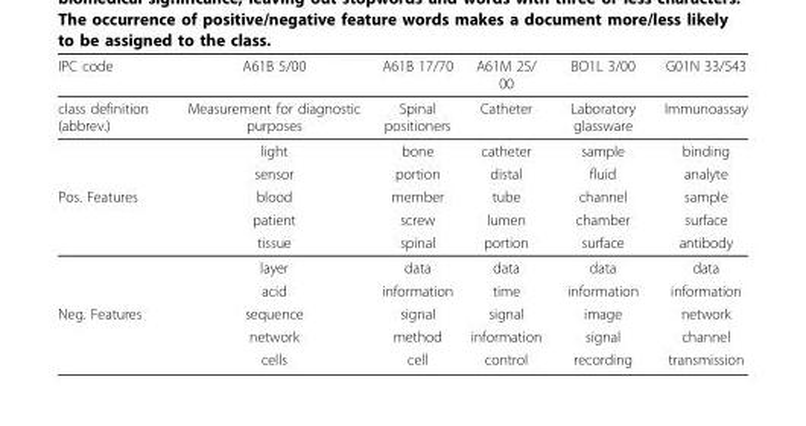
<table><thead><tr><td>IPC code</td><td>A61B 5/00</td><td>A61B 17/70</td><td>A61M 25/ 00</td><td>BO1L 3/00</td><td>G01N 33/543</td></tr></thead><tbody><tr><td rowspan="3">class definition (abbrev.)</td><td>Measurement for diagnostic purposes</td><td>Spinal positioners</td><td>Catheter</td><td>Laboratory glassware</td><td>Immunoassay</td></tr><tr><td>light</td><td>bone</td><td>catheter</td><td>sample</td><td>binding</td></tr><tr><td>sensor</td><td>portion</td><td>distal</td><td>fluid</td><td>analyte</td></tr><tr><td rowspan="5">Pos. Features</td><td>blood</td><td>member</td><td>tube</td><td>channel</td><td>sample</td></tr><tr><td>patient</td><td>screw</td><td>lumen</td><td>chamber</td><td>surface</td></tr><tr><td>tissue</td><td>spinal</td><td>portion</td><td>surface</td><td>antibody</td></tr><tr><td>layer</td><td>data</td><td>data</td><td>data</td><td>data</td></tr><tr><td>acid</td><td>information</td><td>time</td><td>information</td><td>information</td></tr><tr><td rowspan="3">Neg. Features</td><td>sequence</td><td>signal</td><td>signal</td><td>image</td><td>network</td></tr><tr><td>network</td><td>method</td><td>information</td><td>signal</td><td>channel</td></tr><tr><td>cells</td><td>cell</td><td>control</td><td>recording</td><td>transmission</td></tr></tbody></table>